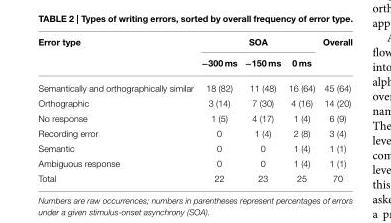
<table><thead><tr><td rowspan="2">Error type</td><td colspan="3">SOA</td><td rowspan="2">Overall</td></tr><tr><td>−300 ms</td><td>−150 ms</td><td>0 ms</td></tr></thead><tbody><tr><td>Semantically and orthographically similar</td><td>18 (82)</td><td>11 (48)</td><td>16 (64)</td><td>45 (64)</td></tr><tr><td>Orthographic</td><td>3 (14)</td><td>7 (30)</td><td>4 (16)</td><td>14 (20)</td></tr><tr><td>No response</td><td>1 (5)</td><td>4 (17)</td><td>1 (4)</td><td>6 (9)</td></tr><tr><td>Recording error</td><td>0</td><td>1 (4)</td><td>2 (8)</td><td>3 (4)</td></tr><tr><td>Semantic</td><td>0</td><td>0</td><td>1 (4)</td><td>1 (1)</td></tr><tr><td>Ambiguous response</td><td>0</td><td>0</td><td>1 (4)</td><td>1 (1)</td></tr><tr><td>Total</td><td>22</td><td>23</td><td>25</td><td>70</td></tr></tbody></table>